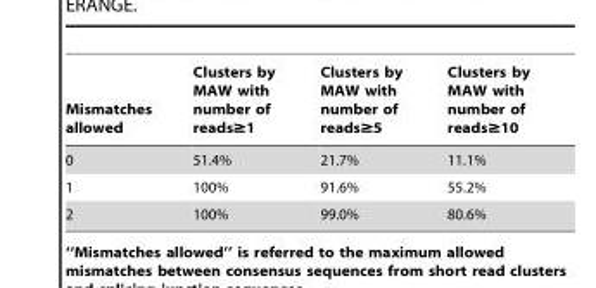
<table><thead><tr><td>Mismatches allowed</td><td>Clusters by MAW with number of reads≥1</td><td>Clusters by MAW with number of reads≥5</td><td>Clusters by MAW with number of reads≥10</td></tr></thead><tbody><tr><td>0</td><td>51.4%</td><td>21.7%</td><td>11.1%</td></tr><tr><td>1</td><td>100%</td><td>91.6%</td><td>55.2%</td></tr><tr><td>2</td><td>100%</td><td>99.0%</td><td>80.6%</td></tr></tbody></table>